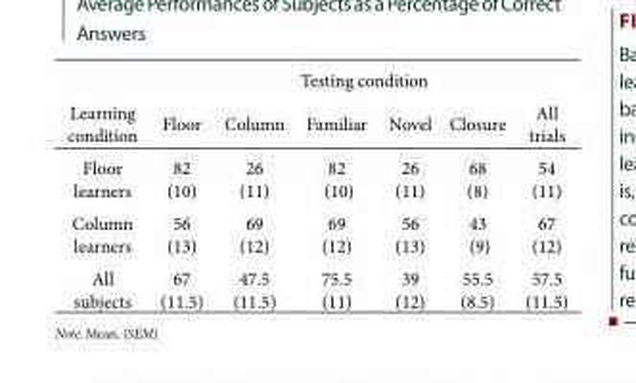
<table><thead><tr><td rowspan="2">Learning condition</td><td colspan="6">Testing condition</td></tr><tr><td>Floor</td><td>Column</td><td>Familiar</td><td>Novel</td><td>Closure</td><td>All trials</td></tr></thead><tbody><tr><td>Floor learners</td><td>82 (10)</td><td>26 (11)</td><td>82 (10)</td><td>26 (11)</td><td>68 (8)</td><td>54 (11)</td></tr><tr><td>Column learners</td><td>56 (13)</td><td>69 (12)</td><td>69 (12)</td><td>56 (13)</td><td>43 (9)</td><td>67 (12)</td></tr><tr><td>All subjects</td><td>67 (11.5)</td><td>47.5 (11.5)</td><td>75.5 (11)</td><td>39 (12)</td><td>55.5 (8.5)</td><td>57.5 (11.5)</td></tr></tbody></table>